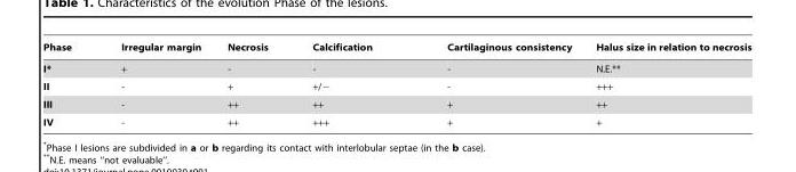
<table><thead><tr><td>Phase</td><td>Irregular margin</td><td>Necrosis</td><td>Calcification</td><td>Cartilaginous consistency</td><td>Halus size in relation to necrosis</td></tr></thead><tbody><tr><td>I*</td><td>+</td><td>-</td><td>-</td><td>-</td><td>N.E.**</td></tr><tr><td>II</td><td>-</td><td>+</td><td>+/−</td><td>-</td><td>+++</td></tr><tr><td>III</td><td>-</td><td>++</td><td>++</td><td>+</td><td>++</td></tr><tr><td>IV</td><td>-</td><td>++</td><td>+++</td><td>+</td><td>+</td></tr></tbody></table>